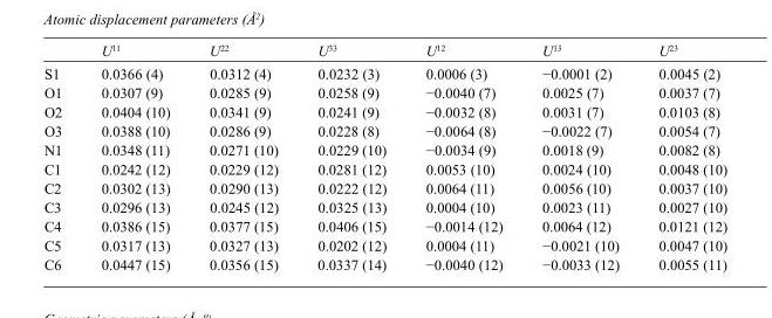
<table><thead><tr><td></td><td>U<sup>11</sup></td><td>U<sup>22</sup></td><td>U<sup>33</sup></td><td>U<sup>12</sup></td><td>U<sup>13</sup></td><td>U<sup>23</sup></td></tr></thead><tbody><tr><td>S1</td><td>0.0366 (4)</td><td>0.0312 (4)</td><td>0.0232 (3)</td><td>0.0006 (3)</td><td>−0.0001 (2)</td><td>0.0045 (2)</td></tr><tr><td>O1</td><td>0.0307 (9)</td><td>0.0285 (9)</td><td>0.0258 (9)</td><td>−0.0040 (7)</td><td>0.0025 (7)</td><td>0.0037 (7)</td></tr><tr><td>O2</td><td>0.0404 (10)</td><td>0.0341 (9)</td><td>0.0241 (9)</td><td>−0.0032 (8)</td><td>0.0031 (7)</td><td>0.0103 (8)</td></tr><tr><td>O3</td><td>0.0388 (10)</td><td>0.0286 (9)</td><td>0.0228 (8)</td><td>−0.0064 (8)</td><td>−0.0022 (7)</td><td>0.0054 (7)</td></tr><tr><td>N1</td><td>0.0348 (11)</td><td>0.0271 (10)</td><td>0.0229 (10)</td><td>−0.0034 (9)</td><td>0.0018 (9)</td><td>0.0082 (8)</td></tr><tr><td>C1</td><td>0.0242 (12)</td><td>0.0229 (12)</td><td>0.0281 (12)</td><td>0.0053 (10)</td><td>0.0024 (10)</td><td>0.0048 (10)</td></tr><tr><td>C2</td><td>0.0302 (13)</td><td>0.0290 (13)</td><td>0.0222 (12)</td><td>0.0064 (11)</td><td>0.0056 (10)</td><td>0.0037 (10)</td></tr><tr><td>C3</td><td>0.0296 (13)</td><td>0.0245 (12)</td><td>0.0325 (13)</td><td>0.0004 (10)</td><td>0.0023 (11)</td><td>0.0027 (10)</td></tr><tr><td>C4</td><td>0.0386 (15)</td><td>0.0377 (15)</td><td>0.0406 (15)</td><td>−0.0014 (12)</td><td>0.0064 (12)</td><td>0.0121 (12)</td></tr><tr><td>C5</td><td>0.0317 (13)</td><td>0.0327 (13)</td><td>0.0202 (12)</td><td>0.0004 (11)</td><td>−0.0021 (10)</td><td>0.0047 (10)</td></tr><tr><td>C6</td><td>0.0447 (15)</td><td>0.0356 (15)</td><td>0.0337 (14)</td><td>−0.0040 (12)</td><td>−0.0033 (12)</td><td>0.0055 (11)</td></tr></tbody></table>